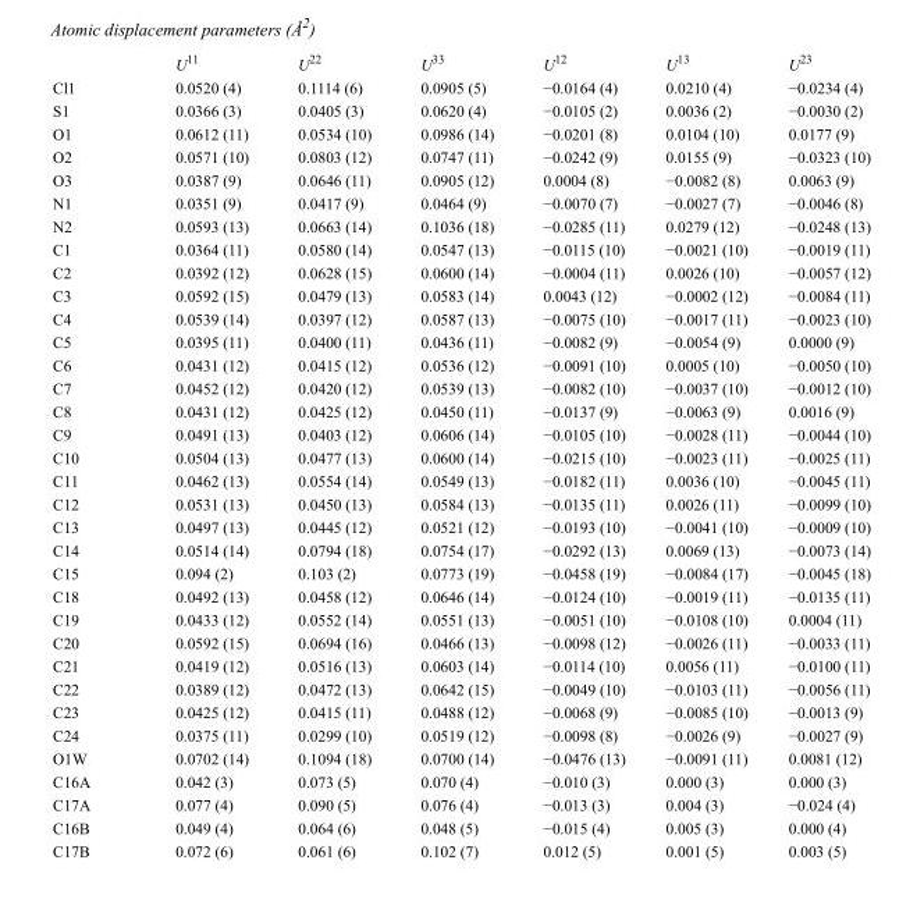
<table><thead><tr><td></td><td>U<sup>11</sup></td><td>U<sup>22</sup></td><td>U<sup>33</sup></td><td>U<sup>12</sup></td><td>U<sup>13</sup></td><td>U<sup>23</sup></td></tr></thead><tbody><tr><td>Cl1</td><td>0.0520 (4)</td><td>0.1114 (6)</td><td>0.0905 (5)</td><td>−0.0164 (4)</td><td>0.0210 (4)</td><td>−0.0234 (4)</td></tr><tr><td>S1</td><td>0.0366 (3)</td><td>0.0405 (3)</td><td>0.0620 (4)</td><td>−0.0105 (2)</td><td>0.0036 (2)</td><td>−0.0030 (2)</td></tr><tr><td>O1</td><td>0.0612 (11)</td><td>0.0534 (10)</td><td>0.0986 (14)</td><td>−0.0201 (8)</td><td>0.0104 (10)</td><td>0.0177 (9)</td></tr><tr><td>O2</td><td>0.0571 (10)</td><td>0.0803 (12)</td><td>0.0747 (11)</td><td>−0.0242 (9)</td><td>0.0155 (9)</td><td>−0.0323 (10)</td></tr><tr><td>O3</td><td>0.0387 (9)</td><td>0.0646 (11)</td><td>0.0905 (12)</td><td>0.0004 (8)</td><td>−0.0082 (8)</td><td>0.0063 (9)</td></tr><tr><td>N1</td><td>0.0351 (9)</td><td>0.0417 (9)</td><td>0.0464 (9)</td><td>−0.0070 (7)</td><td>−0.0027 (7)</td><td>−0.0046 (8)</td></tr><tr><td>N2</td><td>0.0593 (13)</td><td>0.0663 (14)</td><td>0.1036 (18)</td><td>−0.0285 (11)</td><td>0.0279 (12)</td><td>−0.0248 (13)</td></tr><tr><td>C1</td><td>0.0364 (11)</td><td>0.0580 (14)</td><td>0.0547 (13)</td><td>−0.0115 (10)</td><td>−0.0021 (10)</td><td>−0.0019 (11)</td></tr><tr><td>C2</td><td>0.0392 (12)</td><td>0.0628 (15)</td><td>0.0600 (14)</td><td>−0.0004 (11)</td><td>0.0026 (10)</td><td>−0.0057 (12)</td></tr><tr><td>C3</td><td>0.0592 (15)</td><td>0.0479 (13)</td><td>0.0583 (14)</td><td>0.0043 (12)</td><td>−0.0002 (12)</td><td>−0.0084 (11)</td></tr><tr><td>C4</td><td>0.0539 (14)</td><td>0.0397 (12)</td><td>0.0587 (13)</td><td>−0.0075 (10)</td><td>−0.0017 (11)</td><td>−0.0023 (10)</td></tr><tr><td>C5</td><td>0.0395 (11)</td><td>0.0400 (11)</td><td>0.0436 (11)</td><td>−0.0082 (9)</td><td>−0.0054 (9)</td><td>0.0000 (9)</td></tr><tr><td>C6</td><td>0.0431 (12)</td><td>0.0415 (12)</td><td>0.0536 (12)</td><td>−0.0091 (10)</td><td>0.0005 (10)</td><td>−0.0050 (10)</td></tr><tr><td>C7</td><td>0.0452 (12)</td><td>0.0420 (12)</td><td>0.0539 (13)</td><td>−0.0082 (10)</td><td>−0.0037 (10)</td><td>−0.0012 (10)</td></tr><tr><td>C8</td><td>0.0431 (12)</td><td>0.0425 (12)</td><td>0.0450 (11)</td><td>−0.0137 (9)</td><td>−0.0063 (9)</td><td>0.0016 (9)</td></tr><tr><td>C9</td><td>0.0491 (13)</td><td>0.0403 (12)</td><td>0.0606 (14)</td><td>−0.0105 (10)</td><td>−0.0028 (11)</td><td>−0.0044 (10)</td></tr><tr><td>C10</td><td>0.0504 (13)</td><td>0.0477 (13)</td><td>0.0600 (14)</td><td>−0.0215 (10)</td><td>−0.0023 (11)</td><td>−0.0025 (11)</td></tr><tr><td>C11</td><td>0.0462 (13)</td><td>0.0554 (14)</td><td>0.0549 (13)</td><td>−0.0182 (11)</td><td>0.0036 (10)</td><td>−0.0045 (11)</td></tr><tr><td>C12</td><td>0.0531 (13)</td><td>0.0450 (13)</td><td>0.0584 (13)</td><td>−0.0135 (11)</td><td>0.0026 (11)</td><td>−0.0099 (10)</td></tr><tr><td>C13</td><td>0.0497 (13)</td><td>0.0445 (12)</td><td>0.0521 (12)</td><td>−0.0193 (10)</td><td>−0.0041 (10)</td><td>−0.0009 (10)</td></tr><tr><td>C14</td><td>0.0514 (14)</td><td>0.0794 (18)</td><td>0.0754 (17)</td><td>−0.0292 (13)</td><td>0.0069 (13)</td><td>−0.0073 (14)</td></tr><tr><td>C15</td><td>0.094 (2)</td><td>0.103 (2)</td><td>0.0773 (19)</td><td>−0.0458 (19)</td><td>−0.0084 (17)</td><td>−0.0045 (18)</td></tr><tr><td>C18</td><td>0.0492 (13)</td><td>0.0458 (12)</td><td>0.0646 (14)</td><td>−0.0124 (10)</td><td>−0.0019 (11)</td><td>−0.0135 (11)</td></tr><tr><td>C19</td><td>0.0433 (12)</td><td>0.0552 (14)</td><td>0.0551 (13)</td><td>−0.0051 (10)</td><td>−0.0108 (10)</td><td>0.0004 (11)</td></tr><tr><td>C20</td><td>0.0592 (15)</td><td>0.0694 (16)</td><td>0.0466 (13)</td><td>−0.0098 (12)</td><td>−0.0026 (11)</td><td>−0.0033 (11)</td></tr><tr><td>C21</td><td>0.0419 (12)</td><td>0.0516 (13)</td><td>0.0603 (14)</td><td>−0.0114 (10)</td><td>0.0056 (11)</td><td>−0.0100 (11)</td></tr><tr><td>C22</td><td>0.0389 (12)</td><td>0.0472 (13)</td><td>0.0642 (15)</td><td>−0.0049 (10)</td><td>−0.0103 (11)</td><td>−0.0056 (11)</td></tr><tr><td>C23</td><td>0.0425 (12)</td><td>0.0415 (11)</td><td>0.0488 (12)</td><td>−0.0068 (9)</td><td>−0.0085 (10)</td><td>−0.0013 (9)</td></tr><tr><td>C24</td><td>0.0375 (11)</td><td>0.0299 (10)</td><td>0.0519 (12)</td><td>−0.0098 (8)</td><td>−0.0026 (9)</td><td>−0.0027 (9)</td></tr><tr><td>O1W</td><td>0.0702 (14)</td><td>0.1094 (18)</td><td>0.0700 (14)</td><td>−0.0476 (13)</td><td>−0.0091 (11)</td><td>0.0081 (12)</td></tr><tr><td>C16A</td><td>0.042 (3)</td><td>0.073 (5)</td><td>0.070 (4)</td><td>−0.010 (3)</td><td>0.000 (3)</td><td>0.000 (3)</td></tr><tr><td>C17A</td><td>0.077 (4)</td><td>0.090 (5)</td><td>0.076 (4)</td><td>−0.013 (3)</td><td>0.004 (3)</td><td>−0.024 (4)</td></tr><tr><td>C16B</td><td>0.049 (4)</td><td>0.064 (6)</td><td>0.048 (5)</td><td>−0.015 (4)</td><td>0.005 (3)</td><td>0.000 (4)</td></tr><tr><td>C17B</td><td>0.072 (6)</td><td>0.061 (6)</td><td>0.102 (7)</td><td>0.012 (5)</td><td>0.001 (5)</td><td>0.003 (5)</td></tr></tbody></table>